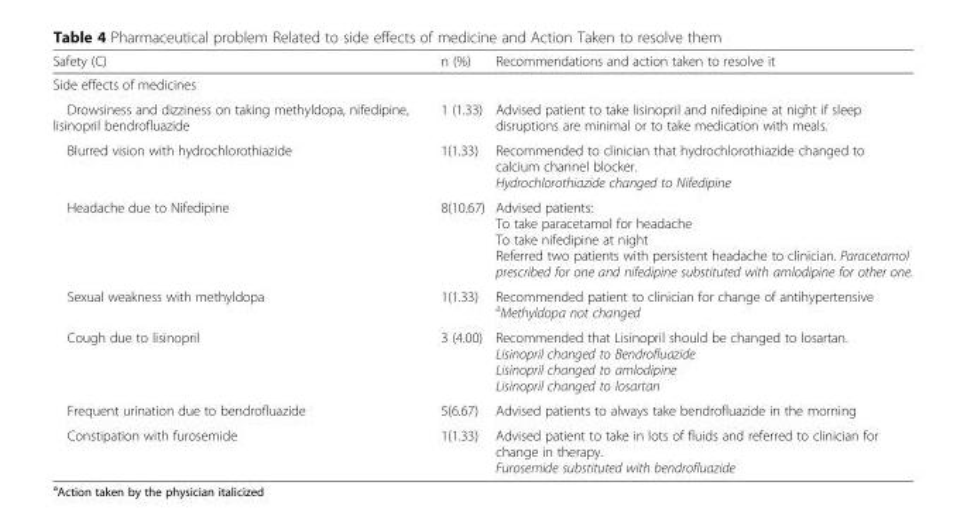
<table><thead><tr><td>Safety (C)</td><td>n (%)</td><td>Recommendations and action taken to resolve it</td></tr></thead><tbody><tr><td colspan="3">Side effects of medicines</td></tr><tr><td>Drowsiness and dizziness on taking methyldopa, nifedipine, lisinopril bendrofluazide</td><td>1 (1.33)</td><td>Advised patient to take lisinopril and nifedipine at night if sleep disruptions are minimal or to take medication with meals.</td></tr><tr><td>Blurred vision with hydrochlorothiazide</td><td>1(1.33)</td><td>Recommended to clinician that hydrochlorothiazide changed to calcium channel blocker. Hydrochlorothiazide changed to Nifedipine</td></tr><tr><td>Headache due to Nifedipine</td><td>8(10.67)</td><td>Advised patients: To take paracetamol for headache To take nifedipine at night Referred two patients with persistent headache to clinician. Paracetamol prescribed for one and nifedipine substituted with amlodipine for other one.</td></tr><tr><td>Sexual weakness with methyldopa</td><td>1(1.33)</td><td>Recommended patient to clinician for change of antihypertensive <sup>a</sup>Methyldopa not changed</td></tr><tr><td>Cough due to lisinopril</td><td>3 (4.00)</td><td>Recommended that Lisinopril should be changed to losartan. Lisinopril changed to Bendrofluazide Lisinopril changed to amlodipine Lisinopril changed to losartan</td></tr><tr><td>Frequent urination due to bendrofluazide</td><td>5(6.67)</td><td>Advised patients to always take bendrofluazide in the morning</td></tr><tr><td>Constipation with furosemide</td><td>1(1.33)</td><td>Advised patient to take in lots of fluids and referred to clinician for change in therapy. Furosemide substituted with bendrofluazide</td></tr></tbody></table>